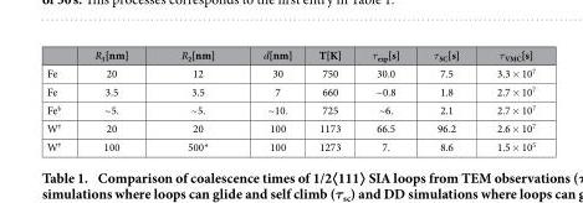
<table><thead><tr><td></td><td>R<sub>1</sub>[nm]</td><td>R<sub>2</sub>[nm]</td><td>d[nm]</td><td>T[K]</td><td>τ<sub>exp</sub>[s]</td><td>τ<sub>SC</sub>[s]</td><td>τ<sub>VMC</sub>[s]</td></tr></thead><tbody><tr><td>Fe</td><td>20</td><td>12</td><td>30</td><td>750</td><td>30.0</td><td>7.5</td><td>3.3 × 10<sup>7</sup></td></tr><tr><td>Fe</td><td>3.5</td><td>3.5</td><td>7</td><td>660</td><td>~0.8</td><td>1.8</td><td>2.7 × 10<sup>7</sup></td></tr><tr><td>Fe§</td><td>~5.</td><td>~5.</td><td>~10.</td><td>725</td><td>~6.</td><td>2.1</td><td>2.7 × 10<sup>7</sup></td></tr><tr><td>W<sup>†</sup></td><td>20</td><td>20</td><td>100</td><td>1173</td><td>66.5</td><td>96.2</td><td>2.6 × 10<sup>7</sup></td></tr><tr><td>W<sup>†</sup></td><td>100</td><td>500*</td><td>100</td><td>1273</td><td>7.</td><td>8.6</td><td>1.5 × 10<sup>5</sup></td></tr></tbody></table>